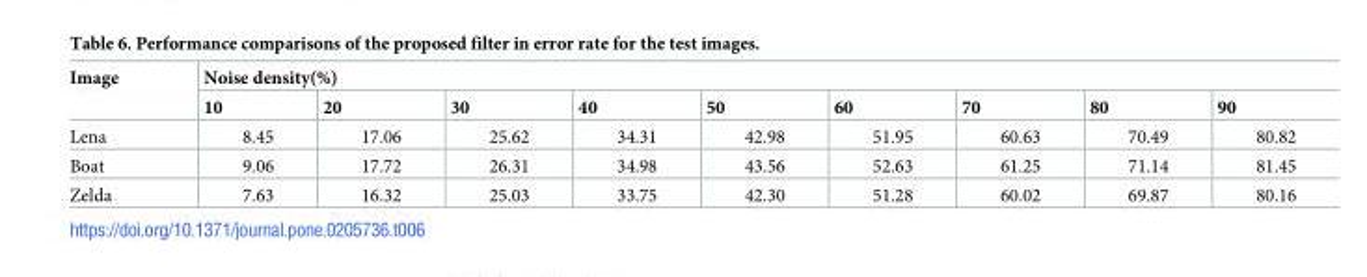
<table><thead><tr><td rowspan="2">Image</td><td colspan="9">Noise density(%)</td></tr><tr><td>10</td><td>20</td><td>30</td><td>40</td><td>50</td><td>60</td><td>70</td><td>80</td><td>90</td></tr></thead><tbody><tr><td>Lena</td><td>8.45</td><td>17.06</td><td>25.62</td><td>34.31</td><td>42.98</td><td>51.95</td><td>60.63</td><td>70.49</td><td>80.82</td></tr><tr><td>Boat</td><td>9.06</td><td>17.72</td><td>26.31</td><td>34.98</td><td>43.56</td><td>52.63</td><td>61.25</td><td>71.14</td><td>81.45</td></tr><tr><td>Zelda</td><td>7.63</td><td>16.32</td><td>25.03</td><td>33.75</td><td>42.30</td><td>51.28</td><td>60.02</td><td>69.87</td><td>80.16</td></tr></tbody></table>